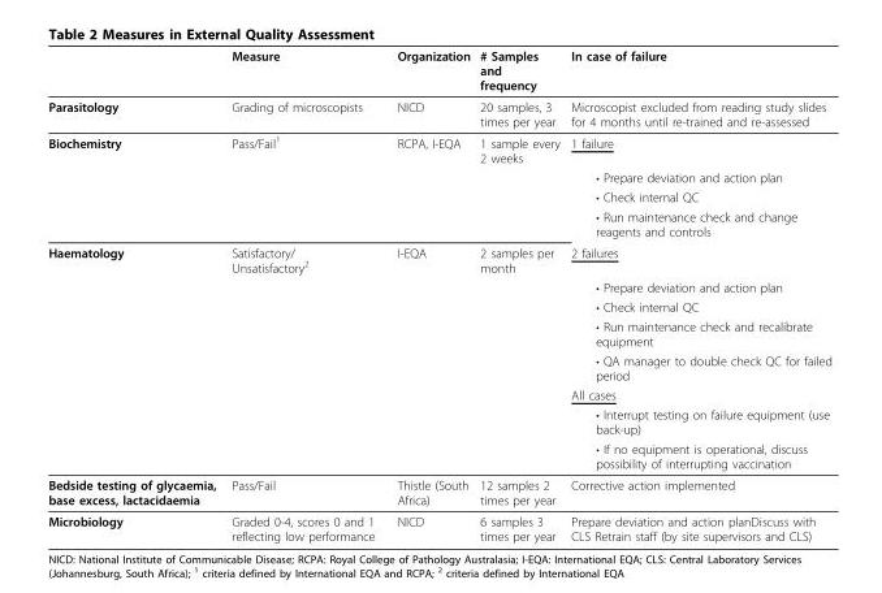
<table><thead><tr><td></td><td>Measure</td><td>Organization</td><td># Samples and frequency</td><td>In case of failure</td></tr></thead><tbody><tr><td>Parasitology</td><td>Grading of microscopists</td><td>NICD</td><td>20 samples, 3 times per year</td><td>Microscopist excluded from reading study slides for 4 months until re-trained and re-assessed</td></tr><tr><td rowspan="4">Biochemistry</td><td>Pass/Fail<sup>1</sup></td><td>RCPA, I-EQA</td><td>1 sample every 2 weeks</td><td>1 failure</td></tr><tr><td></td><td></td><td></td><td>• Prepare deviation and action plan</td></tr><tr><td></td><td></td><td></td><td>• Check internal QC</td></tr><tr><td></td><td></td><td></td><td>• Run maintenance check and change reagents and controls</td></tr><tr><td rowspan="8">Haematology</td><td>Satisfactory/ Unsatisfactory<sup>2</sup></td><td>I-EQA</td><td>2 samples per month</td><td>2 failures</td></tr><tr><td></td><td></td><td></td><td>• Prepare deviation and action plan</td></tr><tr><td></td><td></td><td></td><td>• Check internal QC</td></tr><tr><td></td><td></td><td></td><td>• Run maintenance check and recalibrate equipment</td></tr><tr><td></td><td></td><td></td><td>• QA manager to double check QC for failed period</td></tr><tr><td></td><td></td><td></td><td>All cases</td></tr><tr><td></td><td></td><td></td><td>• Interrupt testing on failure equipment (use back-up)</td></tr><tr><td></td><td></td><td></td><td>• If no equipment is operational, discuss possibility of interrupting vaccination</td></tr><tr><td>Bedside testing of glycaemia, base excess, lactacidaemia</td><td>Pass/Fail</td><td>Thistle (South Africa)</td><td>12 samples 2 times per year</td><td>Corrective action implemented</td></tr><tr><td>Microbiology</td><td>Graded 0-4, scores 0 and 1 reflecting low performance</td><td>NICD</td><td>6 samples 3 times per year</td><td>Prepare deviation and action planDiscuss with CLS Retrain staff (by site supervisors and CLS)</td></tr></tbody></table>